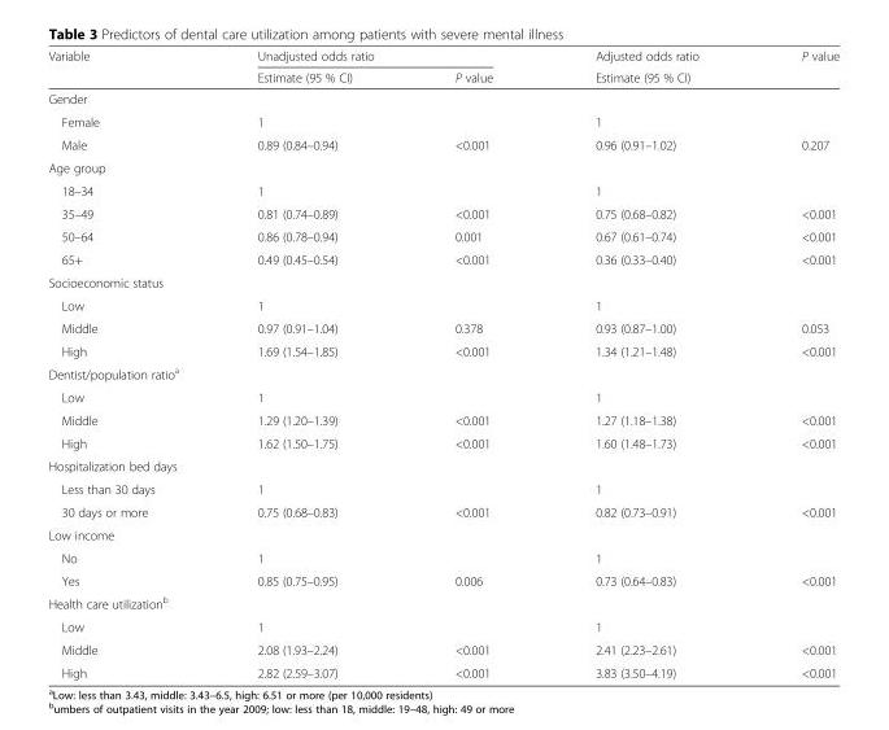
<table><thead><tr><td rowspan="2">Variable</td><td colspan="2">Unadjusted odds ratio</td><td rowspan="2">Adjusted odds ratio Estimate (95 % CI)</td><td rowspan="2">P value</td></tr><tr><td>Estimate (95 % CI)</td><td>P value</td></tr></thead><tbody><tr><td colspan="5">Gender</td></tr><tr><td>Female</td><td>1</td><td></td><td>1</td><td></td></tr><tr><td>Male</td><td>0.89 (0.84–0.94)</td><td>&lt;0.001</td><td>0.96 (0.91–1.02)</td><td>0.207</td></tr><tr><td colspan="5">Age group</td></tr><tr><td>18–34</td><td>1</td><td></td><td>1</td><td></td></tr><tr><td>35–49</td><td>0.81 (0.74–0.89)</td><td>&lt;0.001</td><td>0.75 (0.68–0.82)</td><td>&lt;0.001</td></tr><tr><td>50–64</td><td>0.86 (0.78–0.94)</td><td>0.001</td><td>0.67 (0.61–0.74)</td><td>&lt;0.001</td></tr><tr><td>65+</td><td>0.49 (0.45–0.54)</td><td>&lt;0.001</td><td>0.36 (0.33–0.40)</td><td>&lt;0.001</td></tr><tr><td colspan="5">Socioeconomic status</td></tr><tr><td>Low</td><td>1</td><td></td><td>1</td><td></td></tr><tr><td>Middle</td><td>0.97 (0.91–1.04)</td><td>0.378</td><td>0.93 (0.87–1.00)</td><td>0.053</td></tr><tr><td>High</td><td>1.69 (1.54–1.85)</td><td>&lt;0.001</td><td>1.34 (1.21–1.48)</td><td>&lt;0.001</td></tr><tr><td colspan="5">Dentist/population ratio<sup>a</sup></td></tr><tr><td>Low</td><td>1</td><td></td><td>1</td><td></td></tr><tr><td>Middle</td><td>1.29 (1.20–1.39)</td><td>&lt;0.001</td><td>1.27 (1.18–1.38)</td><td>&lt;0.001</td></tr><tr><td>High</td><td>1.62 (1.50–1.75)</td><td>&lt;0.001</td><td>1.60 (1.48–1.73)</td><td>&lt;0.001</td></tr><tr><td colspan="5">Hospitalization bed days</td></tr><tr><td>Less than 30 days</td><td>1</td><td></td><td>1</td><td></td></tr><tr><td>30 days or more</td><td>0.75 (0.68–0.83)</td><td>&lt;0.001</td><td>0.82 (0.73–0.91)</td><td>&lt;0.001</td></tr><tr><td colspan="5">Low income</td></tr><tr><td>No</td><td>1</td><td></td><td>1</td><td></td></tr><tr><td>Yes</td><td>0.85 (0.75–0.95)</td><td>0.006</td><td>0.73 (0.64–0.83)</td><td>&lt;0.001</td></tr><tr><td colspan="5">Health care utilization<sup>b</sup></td></tr><tr><td>Low</td><td>1</td><td></td><td>1</td><td></td></tr><tr><td>Middle</td><td>2.08 (1.93–2.24)</td><td>&lt;0.001</td><td>2.41 (2.23–2.61)</td><td>&lt;0.001</td></tr><tr><td>High</td><td>2.82 (2.59–3.07)</td><td>&lt;0.001</td><td>3.83 (3.50–4.19)</td><td>&lt;0.001</td></tr></tbody></table>